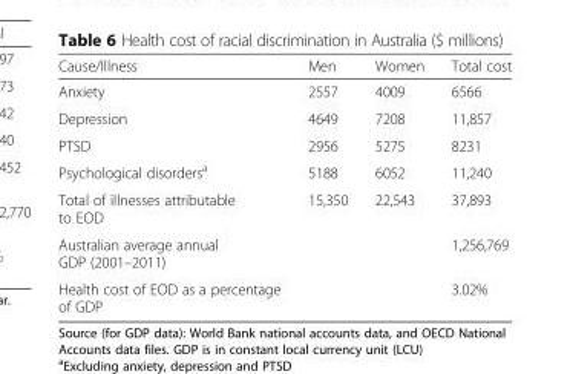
<table><thead><tr><td>Cause/Illness</td><td>Men</td><td>Women</td><td>Total cost</td></tr></thead><tbody><tr><td>Anxiety</td><td>2557</td><td>4009</td><td>6566</td></tr><tr><td>Depression</td><td>4649</td><td>7208</td><td>11,857</td></tr><tr><td>PTSD</td><td>2956</td><td>5275</td><td>8231</td></tr><tr><td>Psychological disorders<sup>a</sup></td><td>5188</td><td>6052</td><td>11,240</td></tr><tr><td>Total of illnesses attributable to EOD</td><td>15,350</td><td>22,543</td><td>37,893</td></tr><tr><td>Australian average annual GDP (2001–2011)</td><td></td><td></td><td>1,256,769</td></tr><tr><td>Health cost of EOD as a percentage of GDP</td><td></td><td></td><td>3.02%</td></tr></tbody></table>